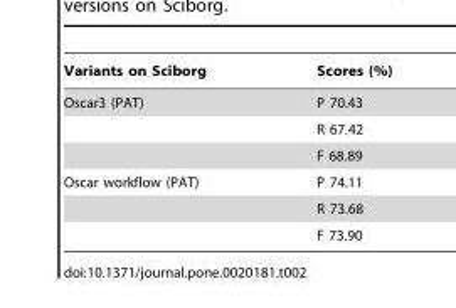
<table><thead><tr><td>Variants on Sciborg</td><td>Scores (%)</td></tr></thead><tbody><tr><td rowspan="3">Oscar3 (PAT)</td><td>P 70.43</td></tr><tr><td>R 67.42</td></tr><tr><td>F 68.89</td></tr><tr><td rowspan="3">Oscar workflow (PAT)</td><td>P 74.11</td></tr><tr><td>R 73.68</td></tr><tr><td>F 73.90</td></tr></tbody></table>